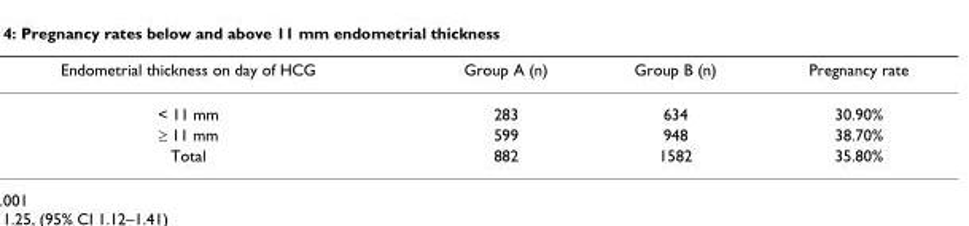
<table><thead><tr><td>Endometrial thickness on day of HCG</td><td>Group A (n)</td><td>Group B (n)</td><td>Pregnancy rate</td></tr></thead><tbody><tr><td>&lt; 11 mm</td><td>283</td><td>634</td><td>30.90%</td></tr><tr><td>≥ 11 mm</td><td>599</td><td>948</td><td>38.70%</td></tr><tr><td>Total</td><td>882</td><td>1582</td><td>35.80%</td></tr></tbody></table>